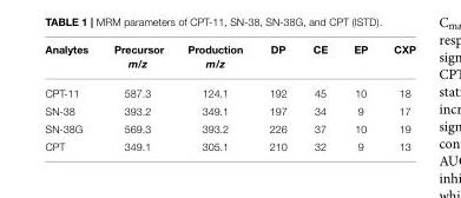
<table><thead><tr><td>Analytes</td><td>Precursor m/z</td><td>Production m/z</td><td>DP</td><td>CE</td><td>EP</td><td>CXP</td></tr></thead><tbody><tr><td>CPT-11</td><td>587.3</td><td>124.1</td><td>192</td><td>45</td><td>10</td><td>18</td></tr><tr><td>SN-38</td><td>393.2</td><td>349.1</td><td>197</td><td>34</td><td>9</td><td>17</td></tr><tr><td>SN-38G</td><td>569.3</td><td>393.2</td><td>226</td><td>37</td><td>10</td><td>19</td></tr><tr><td>CPT</td><td>349.1</td><td>305.1</td><td>210</td><td>32</td><td>9</td><td>13</td></tr></tbody></table>